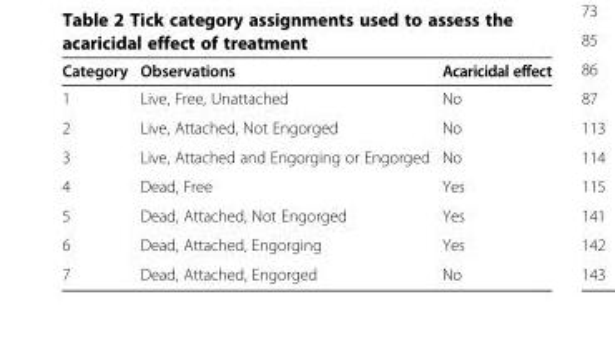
<table><thead><tr><td>Category</td><td>Observations</td><td>Acaricidal effect</td></tr></thead><tbody><tr><td>1</td><td>Live, Free, Unattached</td><td>No</td></tr><tr><td>2</td><td>Live, Attached, Not Engorged</td><td>No</td></tr><tr><td>3</td><td>Live, Attached and Engorging or Engorged</td><td>No</td></tr><tr><td>4</td><td>Dead, Free</td><td>Yes</td></tr><tr><td>5</td><td>Dead, Attached, Not Engorged</td><td>Yes</td></tr><tr><td>6</td><td>Dead, Attached, Engorging</td><td>Yes</td></tr><tr><td>7</td><td>Dead, Attached, Engorged</td><td>No</td></tr></tbody></table>